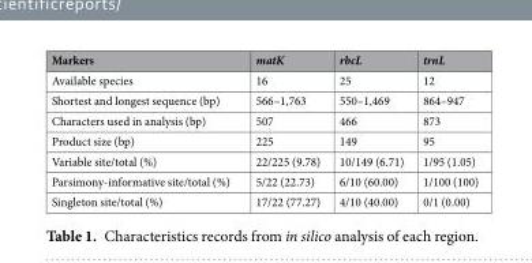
<table><thead><tr><td>Markers</td><td>matK</td><td>rbcL</td><td>trnL</td></tr></thead><tbody><tr><td>Available species</td><td>16</td><td>25</td><td>12</td></tr><tr><td>Shortest and longest sequence (bp)</td><td>566–1,763</td><td>550–1,469</td><td>864–947</td></tr><tr><td>Characters used in analysis (bp)</td><td>507</td><td>466</td><td>873</td></tr><tr><td>Product size (bp)</td><td>225</td><td>149</td><td>95</td></tr><tr><td>Variable site/total (%)</td><td>22/225 (9.78)</td><td>10/149 (6.71)</td><td>1/95 (1.05)</td></tr><tr><td>Parsimony-informative site/total (%)</td><td>5/22 (22.73)</td><td>6/10 (60.00)</td><td>1/100 (100)</td></tr><tr><td>Singleton site/total (%)</td><td>17/22 (77.27)</td><td>4/10 (40.00)</td><td>0/1 (0.00)</td></tr></tbody></table>